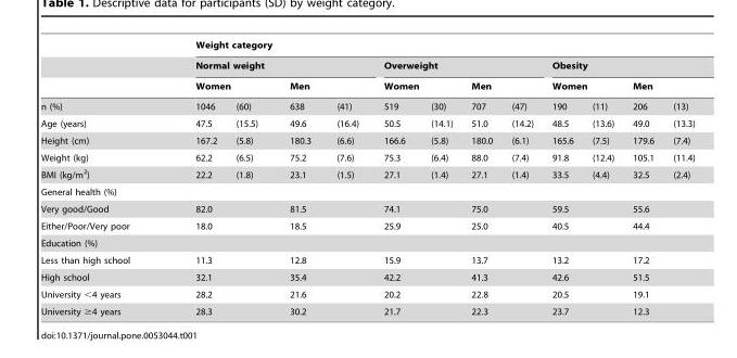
<table><thead><tr><td rowspan="4">n (%)</td><td colspan="12">Weight category</td></tr><tr><td colspan="4">Normal weight</td><td colspan="4">Overweight</td><td colspan="4">Obesity</td></tr><tr><td colspan="2">Women</td><td colspan="2">Men</td><td colspan="2">Women</td><td colspan="2">Men</td><td colspan="2">Women</td><td colspan="2">Men</td></tr><tr><td>1046</td><td>(60)</td><td>638</td><td>(41)</td><td>519</td><td>(30)</td><td>707</td><td>(47)</td><td>190</td><td>(11)</td><td>206</td><td>(13)</td></tr></thead><tbody><tr><td>Age (years)</td><td>47.5</td><td>(15.5)</td><td>49.6</td><td>(16.4)</td><td>50.5</td><td>(14.1)</td><td>51.0</td><td>(14.2)</td><td>48.5</td><td>(13.6)</td><td>49.0</td><td>(13.3)</td></tr><tr><td>Height (cm)</td><td>167.2</td><td>(5.8)</td><td>180.3</td><td>(6.6)</td><td>166.6</td><td>(5.8)</td><td>180.0</td><td>(6.1)</td><td>165.6</td><td>(7.5)</td><td>179.6</td><td>(7.4)</td></tr><tr><td>Weight (kg)</td><td>62.2</td><td>(6.5)</td><td>75.2</td><td>(7.6)</td><td>75.3</td><td>(6.4)</td><td>88.0</td><td>(7.4)</td><td>91.8</td><td>(12.4)</td><td>105.1</td><td>(11.4)</td></tr><tr><td>BMI (kg/m<sup>2</sup>)</td><td>22.2</td><td>(1.8)</td><td>23.1</td><td>(1.5)</td><td>27.1</td><td>(1.4)</td><td>27.1</td><td>(1.4)</td><td>33.5</td><td>(4.4)</td><td>32.5</td><td>(2.4)</td></tr><tr><td colspan="13">General health (%)</td></tr><tr><td>Very good/Good</td><td colspan="2">82.0</td><td colspan="2">81.5</td><td colspan="2">74.1</td><td colspan="2">75.0</td><td colspan="2">59.5</td><td colspan="2">55.6</td></tr><tr><td>Either/Poor/Very poor</td><td colspan="2">18.0</td><td colspan="2">18.5</td><td colspan="2">25.9</td><td colspan="2">25.0</td><td colspan="2">40.5</td><td colspan="2">44.4</td></tr><tr><td colspan="13">Education (%)</td></tr><tr><td>Less than high school</td><td colspan="2">11.3</td><td colspan="2">12.8</td><td colspan="2">15.9</td><td colspan="2">13.7</td><td colspan="2">13.2</td><td colspan="2">17.2</td></tr><tr><td>High school</td><td colspan="2">32.1</td><td colspan="2">35.4</td><td colspan="2">42.2</td><td colspan="2">41.3</td><td colspan="2">42.6</td><td colspan="2">51.5</td></tr><tr><td>University &lt;4 years</td><td colspan="2">28.2</td><td colspan="2">21.6</td><td colspan="2">20.2</td><td colspan="2">22.8</td><td colspan="2">20.5</td><td colspan="2">19.1</td></tr><tr><td>University ≥4 years</td><td colspan="2">28.3</td><td colspan="2">30.2</td><td colspan="2">21.7</td><td colspan="2">22.3</td><td colspan="2">23.7</td><td colspan="2">12.3</td></tr></tbody></table>